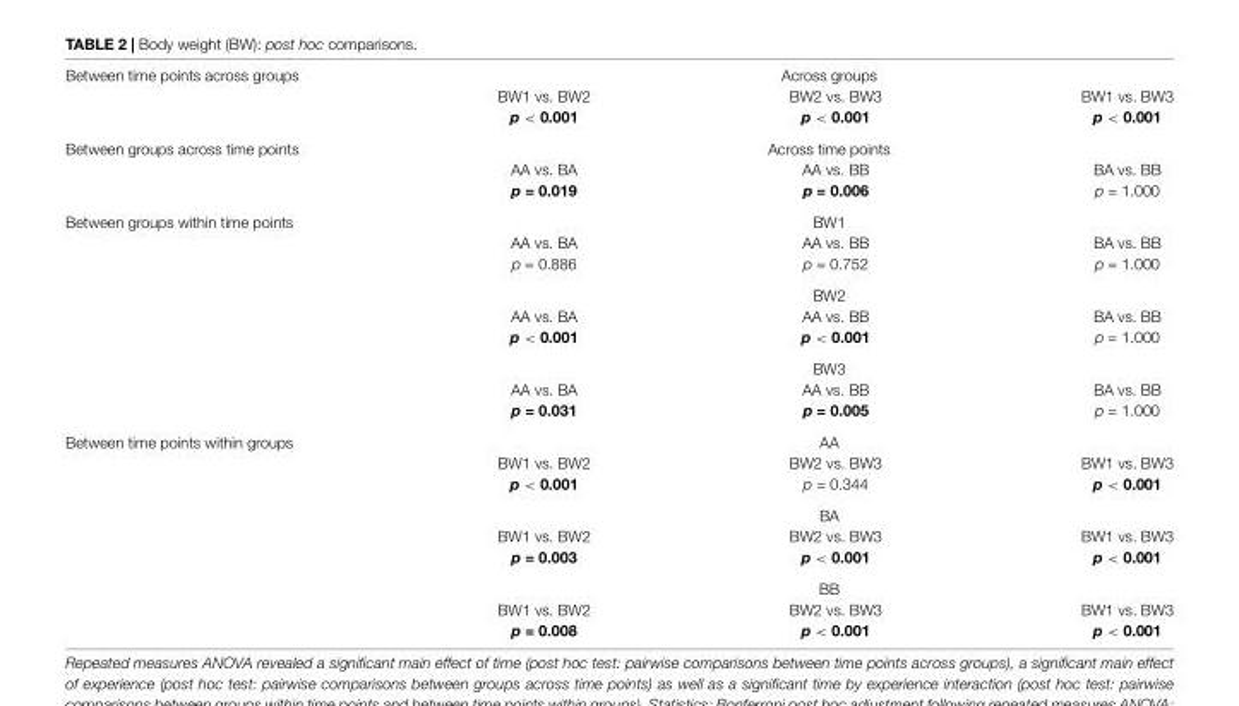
<table><tbody><tr><td rowspan="3">Between time points across groups</td><td colspan="3">Across groups</td></tr><tr><td>BW1 vs. BW2</td><td>BW2 vs. BW3</td><td>BW1 vs. BW3</td></tr><tr><td>p &lt; 0.001</td><td>p &lt; 0.001</td><td>p &lt; 0.001</td></tr><tr><td rowspan="3">Between groups across time points</td><td colspan="3">Across time points</td></tr><tr><td>AA vs. BA</td><td>AA vs. BB</td><td>BA vs. BB</td></tr><tr><td>p = 0.019</td><td>p = 0.006</td><td>p = 1.000</td></tr><tr><td rowspan="9">Between groups within time points</td><td colspan="3">BW1</td></tr><tr><td>AA vs. BA</td><td>AA vs. BB</td><td>BA vs. BB</td></tr><tr><td>p = 0.886</td><td>p = 0.752</td><td>p = 1.000</td></tr><tr><td colspan="3">BW2</td></tr><tr><td>AA vs. BA</td><td>AA vs. BB</td><td>BA vs. BB</td></tr><tr><td>p &lt; 0.001</td><td>p &lt; 0.001</td><td>p = 1.000</td></tr><tr><td colspan="3">BW3</td></tr><tr><td>AA vs. BA</td><td>AA vs. BB</td><td>BA vs. BB</td></tr><tr><td>p = 0.031</td><td>p = 0.005</td><td>p = 1.000</td></tr><tr><td rowspan="9">Between time points within groups</td><td colspan="3">AA</td></tr><tr><td>BW1 vs. BW2</td><td>BW2 vs. BW3</td><td>BW1 vs. BW3</td></tr><tr><td>p &lt; 0.001</td><td>p = 0.344</td><td>p &lt; 0.001</td></tr><tr><td colspan="3">BA</td></tr><tr><td>BW1 vs. BW2</td><td>BW2 vs. BW3</td><td>BW1 vs. BW3</td></tr><tr><td>p = 0.003</td><td>p &lt; 0.001</td><td>p &lt; 0.001</td></tr><tr><td colspan="3">BB</td></tr><tr><td>BW1 vs. BW2</td><td>BW2 vs. BW3</td><td>BW1 vs. BW3</td></tr><tr><td>p = 0.008</td><td>p &lt; 0.001</td><td>p &lt; 0.001</td></tr></tbody></table>